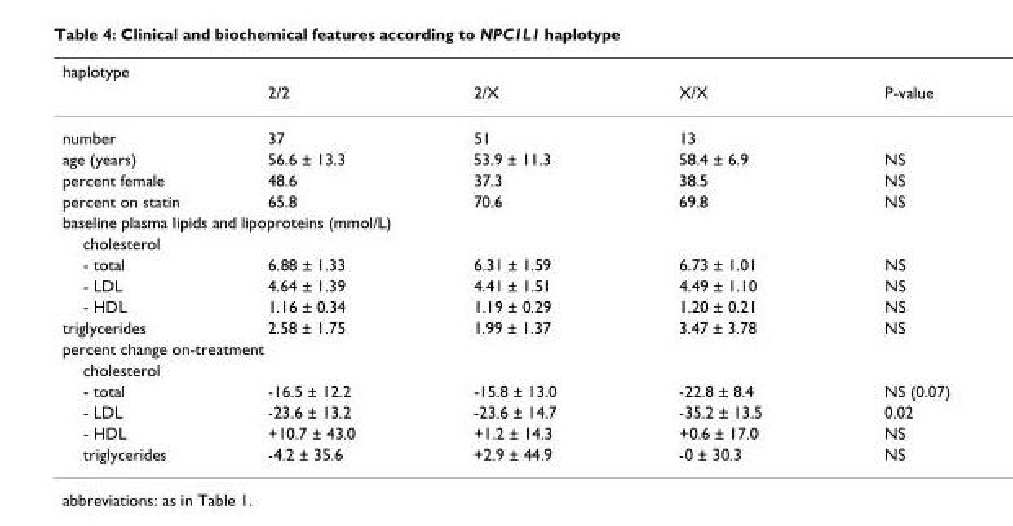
<table><thead><tr><td colspan="5">haplotype</td></tr><tr><td></td><td>2/2</td><td>2/X</td><td>X/X</td><td>P-value</td></tr></thead><tbody><tr><td>number</td><td>37</td><td>51</td><td>13</td><td></td></tr><tr><td>age (years)</td><td>56.6 ± 13.3</td><td>53.9 ± 11.3</td><td>58.4 ± 6.9</td><td>NS</td></tr><tr><td>percent female</td><td>48.6</td><td>37.3</td><td>38.5</td><td>NS</td></tr><tr><td>percent on statin</td><td>65.8</td><td>70.6</td><td>69.8</td><td>NS</td></tr><tr><td colspan="5">baseline plasma lipids and lipoproteins (mmol/L)</td></tr><tr><td colspan="5">cholesterol</td></tr><tr><td>- total</td><td>6.88 ± 1.33</td><td>6.31 ± 1.59</td><td>6.73 ± 1.01</td><td>NS</td></tr><tr><td>- LDL</td><td>4.64 ± 1.39</td><td>4.41 ± 1.51</td><td>4.49 ± 1.10</td><td>NS</td></tr><tr><td>- HDL</td><td>1.16 ± 0.34</td><td>1.19 ± 0.29</td><td>1.20 ± 0.21</td><td>NS</td></tr><tr><td>triglycerides</td><td>2.58 ± 1.75</td><td>1.99 ± 1.37</td><td>3.47 ± 3.78</td><td>NS</td></tr><tr><td colspan="5">percent change on-treatment</td></tr><tr><td colspan="5">cholesterol</td></tr><tr><td>- total</td><td>-16.5 ± 12.2</td><td>-15.8 ± 13.0</td><td>-22.8 ± 8.4</td><td>NS (0.07)</td></tr><tr><td>- LDL</td><td>-23.6 ± 13.2</td><td>-23.6 ± 14.7</td><td>-35.2 ± 13.5</td><td>0.02</td></tr><tr><td>- HDL</td><td>+10.7 ± 43.0</td><td>+1.2 ± 14.3</td><td>+0.6 ± 17.0</td><td>NS</td></tr><tr><td>triglycerides</td><td>-4.2 ± 35.6</td><td>+2.9 ± 44.9</td><td>-0 ± 30.3</td><td>NS</td></tr></tbody></table>